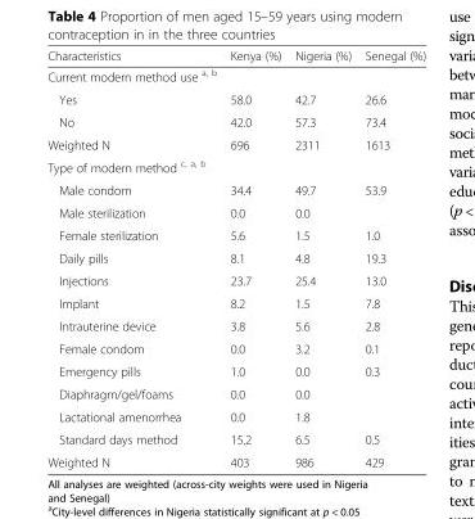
<table><thead><tr><td>Characteristics</td><td>Kenya (%)</td><td>Nigeria (%)</td><td>Senegal (%)</td></tr></thead><tbody><tr><td colspan="4">Current modern method use <sup>a, b</sup></td></tr><tr><td>Yes</td><td>58.0</td><td>42.7</td><td>26.6</td></tr><tr><td>No</td><td>42.0</td><td>57.3</td><td>73.4</td></tr><tr><td>Weighted N</td><td>696</td><td>2311</td><td>1613</td></tr><tr><td colspan="4">Type of modern method <sup>c, a, b</sup></td></tr><tr><td>Male condom</td><td>34.4</td><td>49.7</td><td>53.9</td></tr><tr><td>Male sterilization</td><td>0.0</td><td>0.0</td><td></td></tr><tr><td>Female sterilization</td><td>5.6</td><td>1.5</td><td>1.0</td></tr><tr><td>Daily pills</td><td>8.1</td><td>4.8</td><td>19.3</td></tr><tr><td>Injections</td><td>23.7</td><td>25.4</td><td>13.0</td></tr><tr><td>Implant</td><td>8.2</td><td>1.5</td><td>7.8</td></tr><tr><td>Intrauterine device</td><td>3.8</td><td>5.6</td><td>2.8</td></tr><tr><td>Female condom</td><td>0.0</td><td>3.2</td><td>0.1</td></tr><tr><td>Emergency pills</td><td>1.0</td><td>0.0</td><td>0.3</td></tr><tr><td>Diaphragm/gel/foams</td><td>0.0</td><td>0.0</td><td></td></tr><tr><td>Lactational amenorrhea</td><td>0.0</td><td>1.8</td><td></td></tr><tr><td>Standard days method</td><td>15.2</td><td>6.5</td><td>0.5</td></tr><tr><td>Weighted N</td><td>403</td><td>986</td><td>429</td></tr></tbody></table>